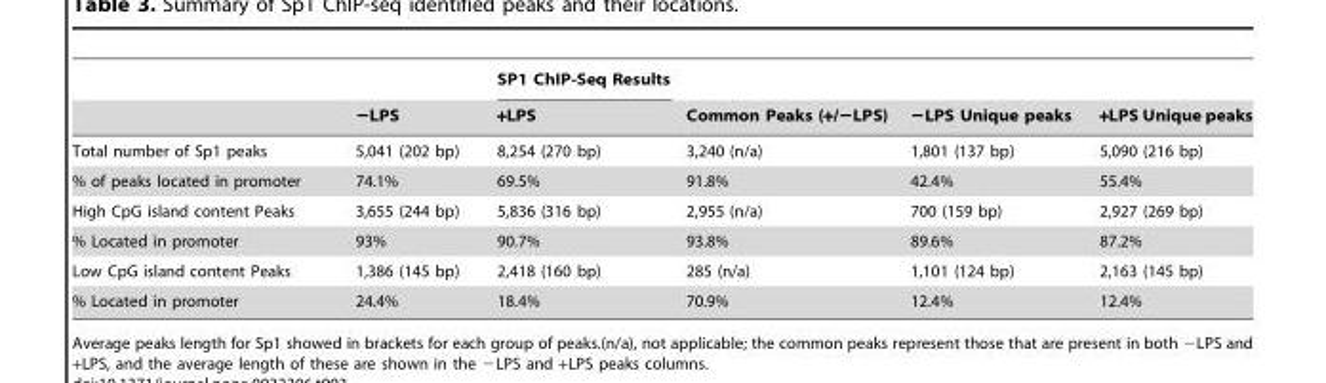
<table><thead><tr><td rowspan="2"></td><td rowspan="2">−LPS</td><td rowspan="2">SP1 ChIP-Seq Results +LPS</td><td rowspan="2">Common Peaks (+/−LPS)</td><td rowspan="2">−LPS Unique peaks</td><td rowspan="2">+LPS Unique peaks</td></tr><tr></tr></thead><tbody><tr><td>Total number of Sp1 peaks</td><td>5,041 (202 bp)</td><td>8,254 (270 bp)</td><td>3,240 (n/a)</td><td>1,801 (137 bp)</td><td>5,090 (216 bp)</td></tr><tr><td>% of peaks located in promoter</td><td>74.1%</td><td>69.5%</td><td>91.8%</td><td>42.4%</td><td>55.4%</td></tr><tr><td>High CpG island content Peaks</td><td>3,655 (244 bp)</td><td>5,836 (316 bp)</td><td>2,955 (n/a)</td><td>700 (159 bp)</td><td>2,927 (269 bp)</td></tr><tr><td>% Located in promoter</td><td>93%</td><td>90.7%</td><td>93.8%</td><td>89.6%</td><td>87.2%</td></tr><tr><td>Low CpG island content Peaks</td><td>1,386 (145 bp)</td><td>2,418 (160 bp)</td><td>285 (n/a)</td><td>1,101 (124 bp)</td><td>2,163 (145 bp)</td></tr><tr><td>% Located in promoter</td><td>24.4%</td><td>18.4%</td><td>70.9%</td><td>12.4%</td><td>12.4%</td></tr></tbody></table>